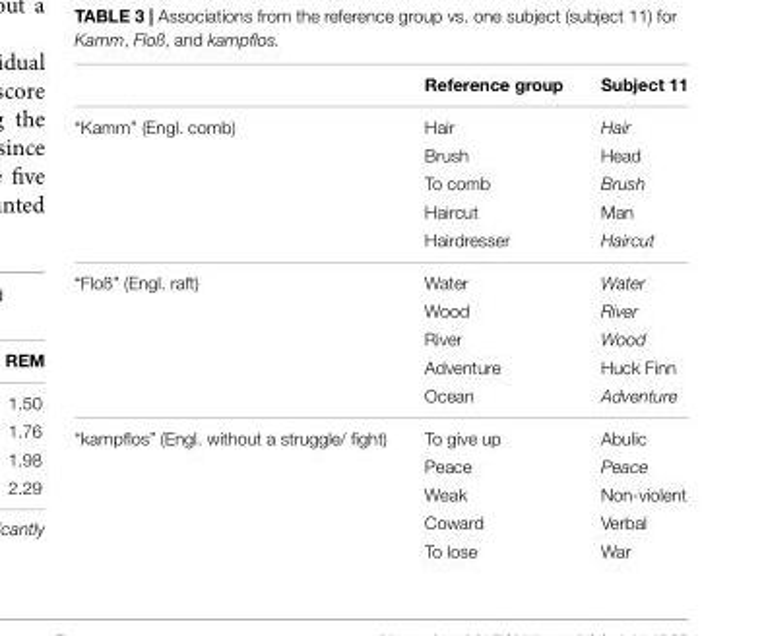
<table><thead><tr><td></td><td>Reference group</td><td>Subject 11</td></tr></thead><tbody><tr><td rowspan="5">“Kamm” (Engl. comb)</td><td>Hair</td><td>Hair</td></tr><tr><td>Brush</td><td>Head</td></tr><tr><td>To comb</td><td>Brush</td></tr><tr><td>Haircut</td><td>Man</td></tr><tr><td>Hairdresser</td><td>Haircut</td></tr><tr><td rowspan="5">“Floß” (Engl. raft)</td><td>Water</td><td>Water</td></tr><tr><td>Wood</td><td>River</td></tr><tr><td>River</td><td>Wood</td></tr><tr><td>Adventure</td><td>Huck Finn</td></tr><tr><td>Ocean</td><td>Adventure</td></tr><tr><td rowspan="5">“kampflos” (Engl. without a struggle/ fight)</td><td>To give up</td><td>Abulic</td></tr><tr><td>Peace</td><td>Peace</td></tr><tr><td>Weak</td><td>Non-violent</td></tr><tr><td>Coward</td><td>Verbal</td></tr><tr><td>To lose</td><td>War</td></tr></tbody></table>